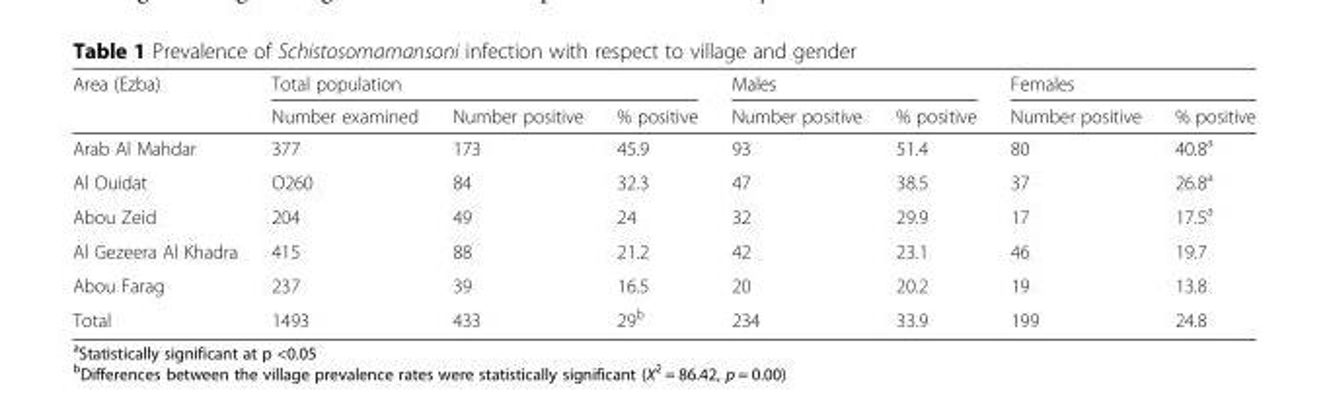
<table><thead><tr><td rowspan="2">Area (Ezba)</td><td colspan="3">Total population</td><td colspan="2">Males</td><td colspan="2">Females</td></tr><tr><td>Number examined</td><td>Number positive</td><td>% positive</td><td>Number positive</td><td>% positive</td><td>Number positive</td><td>% positive</td></tr></thead><tbody><tr><td>Arab Al Mahdar</td><td>377</td><td>173</td><td>45.9</td><td>93</td><td>51.4</td><td>80</td><td>40.8<sup>a</sup></td></tr><tr><td>Al Ouidat</td><td>O260</td><td>84</td><td>32.3</td><td>47</td><td>38.5</td><td>37</td><td>26.8<sup>a</sup></td></tr><tr><td>Abou Zeid</td><td>204</td><td>49</td><td>24</td><td>32</td><td>29.9</td><td>17</td><td>17.5<sup>a</sup></td></tr><tr><td>Al Gezeera Al Khadra</td><td>415</td><td>88</td><td>21.2</td><td>42</td><td>23.1</td><td>46</td><td>19.7</td></tr><tr><td>Abou Farag</td><td>237</td><td>39</td><td>16.5</td><td>20</td><td>20.2</td><td>19</td><td>13.8</td></tr><tr><td>Total</td><td>1493</td><td>433</td><td>29<sup>b</sup></td><td>234</td><td>33.9</td><td>199</td><td>24.8</td></tr></tbody></table>